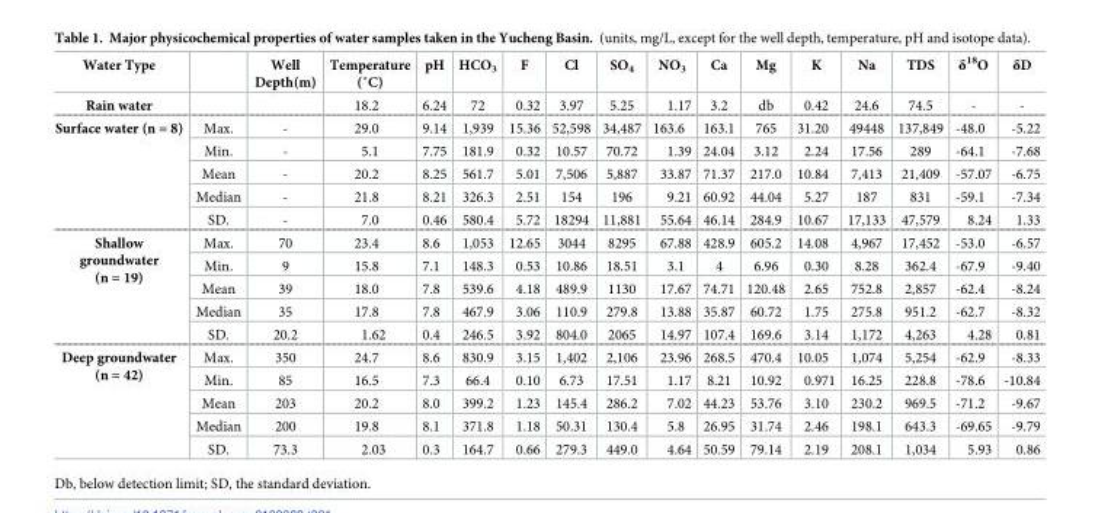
<table><thead><tr><td>Water Type</td><td></td><td>Well Depth(m)</td><td>Temperature (˚C)</td><td>pH</td><td>HCO<sub>3</sub></td><td>F</td><td>Cl</td><td>SO<sub>4</sub></td><td>NO<sub>3</sub></td><td>Ca</td><td>Mg</td><td>K</td><td>Na</td><td>TDS</td><td>δ<sup>18</sup>O</td><td>δD</td></tr></thead><tbody><tr><td>Rain water</td><td></td><td></td><td>18.2</td><td>6.24</td><td>72</td><td>0.32</td><td>3.97</td><td>5.25</td><td>1.17</td><td>3.2</td><td>db</td><td>0.42</td><td>24.6</td><td>74.5</td><td>-</td><td>-</td></tr><tr><td rowspan="5">Surface water (n = 8)</td><td>Max.</td><td>-</td><td>29.0</td><td>9.14</td><td>1,939</td><td>15.36</td><td>52,598</td><td>34,487</td><td>163.6</td><td>163.1</td><td>765</td><td>31.20</td><td>49448</td><td>137,849</td><td>-48.0</td><td>-5.22</td></tr><tr><td>Min.</td><td>-</td><td>5.1</td><td>7.75</td><td>181.9</td><td>0.32</td><td>10.57</td><td>70.72</td><td>1.39</td><td>24.04</td><td>3.12</td><td>2.24</td><td>17.56</td><td>289</td><td>-64.1</td><td>-7.68</td></tr><tr><td>Mean</td><td>-</td><td>20.2</td><td>8.25</td><td>561.7</td><td>5.01</td><td>7,506</td><td>5,887</td><td>33.87</td><td>71.37</td><td>217.0</td><td>10.84</td><td>7,413</td><td>21,409</td><td>-57.07</td><td>-6.75</td></tr><tr><td>Median</td><td>-</td><td>21.8</td><td>8.21</td><td>326.3</td><td>2.51</td><td>154</td><td>196</td><td>9.21</td><td>60.92</td><td>44.04</td><td>5.27</td><td>187</td><td>831</td><td>-59.1</td><td>-7.34</td></tr><tr><td>SD.</td><td>-</td><td>7.0</td><td>0.46</td><td>580.4</td><td>5.72</td><td>18294</td><td>11,881</td><td>55.64</td><td>46.14</td><td>284.9</td><td>10.67</td><td>17,133</td><td>47,579</td><td>8.24</td><td>1.33</td></tr><tr><td rowspan="5">Shallow groundwater (n = 19)</td><td>Max.</td><td>70</td><td>23.4</td><td>8.6</td><td>1,053</td><td>12.65</td><td>3044</td><td>8295</td><td>67.88</td><td>428.9</td><td>605.2</td><td>14.08</td><td>4,967</td><td>17,452</td><td>-53.0</td><td>-6.57</td></tr><tr><td>Min.</td><td>9</td><td>15.8</td><td>7.1</td><td>148.3</td><td>0.53</td><td>10.86</td><td>18.51</td><td>3.1</td><td>4</td><td>6.96</td><td>0.30</td><td>8.28</td><td>362.4</td><td>-67.9</td><td>-9.40</td></tr><tr><td>Mean</td><td>39</td><td>18.0</td><td>7.8</td><td>539.6</td><td>4.18</td><td>489.9</td><td>1130</td><td>17.67</td><td>74.71</td><td>120.48</td><td>2.65</td><td>752.8</td><td>2,857</td><td>-62.4</td><td>-8.24</td></tr><tr><td>Median</td><td>35</td><td>17.8</td><td>7.8</td><td>467.9</td><td>3.06</td><td>110.9</td><td>279.8</td><td>13.88</td><td>35.87</td><td>60.72</td><td>1.75</td><td>275.8</td><td>951.2</td><td>-62.7</td><td>-8.32</td></tr><tr><td>SD.</td><td>20.2</td><td>1.62</td><td>0.4</td><td>246.5</td><td>3.92</td><td>804.0</td><td>2065</td><td>14.97</td><td>107.4</td><td>169.6</td><td>3.14</td><td>1,172</td><td>4,263</td><td>4.28</td><td>0.81</td></tr><tr><td rowspan="5">Deep groundwater (n = 42)</td><td>Max.</td><td>350</td><td>24.7</td><td>8.6</td><td>830.9</td><td>3.15</td><td>1,402</td><td>2,106</td><td>23.96</td><td>268.5</td><td>470.4</td><td>10.05</td><td>1,074</td><td>5,254</td><td>-62.9</td><td>-8.33</td></tr><tr><td>Min.</td><td>85</td><td>16.5</td><td>7.3</td><td>66.4</td><td>0.10</td><td>6.73</td><td>17.51</td><td>1.17</td><td>8.21</td><td>10.92</td><td>0.971</td><td>16.25</td><td>228.8</td><td>-78.6</td><td>-10.84</td></tr><tr><td>Mean</td><td>203</td><td>20.2</td><td>8.0</td><td>399.2</td><td>1.23</td><td>145.4</td><td>286.2</td><td>7.02</td><td>44.23</td><td>53.76</td><td>3.10</td><td>230.2</td><td>969.5</td><td>-71.2</td><td>-9.67</td></tr><tr><td>Median</td><td>200</td><td>19.8</td><td>8.1</td><td>371.8</td><td>1.18</td><td>50.31</td><td>130.4</td><td>5.8</td><td>26.95</td><td>31.74</td><td>2.46</td><td>198.1</td><td>643.3</td><td>-69.65</td><td>-9.79</td></tr><tr><td>SD.</td><td>73.3</td><td>2.03</td><td>0.3</td><td>164.7</td><td>0.66</td><td>279.3</td><td>449.0</td><td>4.64</td><td>50.59</td><td>79.14</td><td>2.19</td><td>208.1</td><td>1,034</td><td>5.93</td><td>0.86</td></tr></tbody></table>